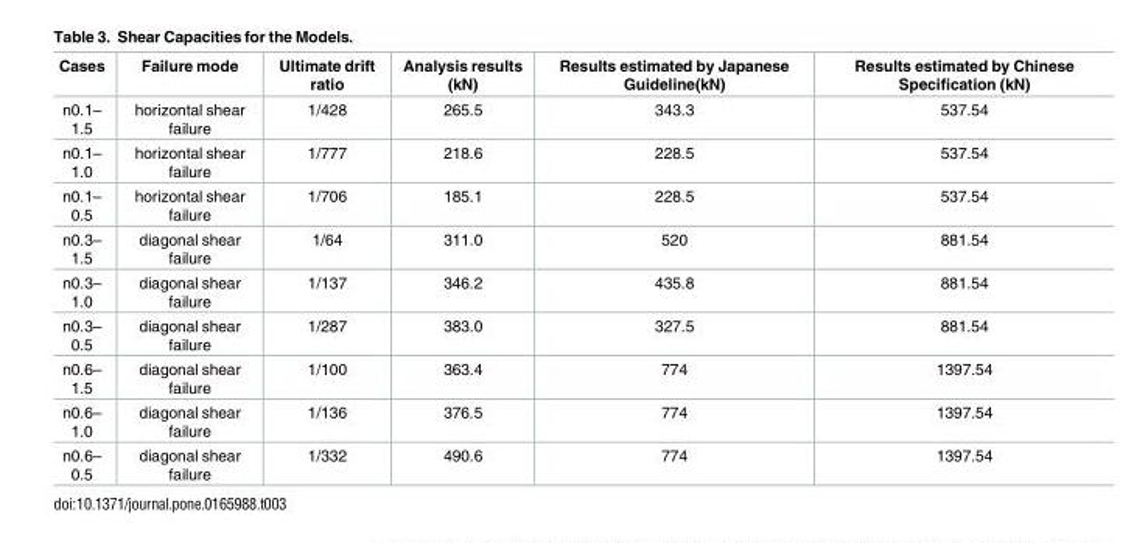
<table><thead><tr><td>Cases</td><td>Failure mode</td><td>Ultimate drift ratio</td><td>Analysis results (kN)</td><td>Results estimated by Japanese Guideline(kN)</td><td>Results estimated by Chinese Specification (kN)</td></tr></thead><tbody><tr><td>n0.1– 1.5</td><td>horizontal shear failure</td><td>1/428</td><td>265.5</td><td>343.3</td><td>537.54</td></tr><tr><td>n0.1– 1.0</td><td>horizontal shear failure</td><td>1/777</td><td>218.6</td><td>228.5</td><td>537.54</td></tr><tr><td>n0.1– 0.5</td><td>horizontal shear failure</td><td>1/706</td><td>185.1</td><td>228.5</td><td>537.54</td></tr><tr><td>n0.3– 1.5</td><td>diagonal shear failure</td><td>1/64</td><td>311.0</td><td>520</td><td>881.54</td></tr><tr><td>n0.3– 1.0</td><td>diagonal shear failure</td><td>1/137</td><td>346.2</td><td>435.8</td><td>881.54</td></tr><tr><td>n0.3– 0.5</td><td>diagonal shear failure</td><td>1/287</td><td>383.0</td><td>327.5</td><td>881.54</td></tr><tr><td>n0.6– 1.5</td><td>diagonal shear failure</td><td>1/100</td><td>363.4</td><td>774</td><td>1397.54</td></tr><tr><td>n0.6– 1.0</td><td>diagonal shear failure</td><td>1/136</td><td>376.5</td><td>774</td><td>1397.54</td></tr><tr><td>n0.6– 0.5</td><td>diagonal shear failure</td><td>1/332</td><td>490.6</td><td>774</td><td>1397.54</td></tr></tbody></table>